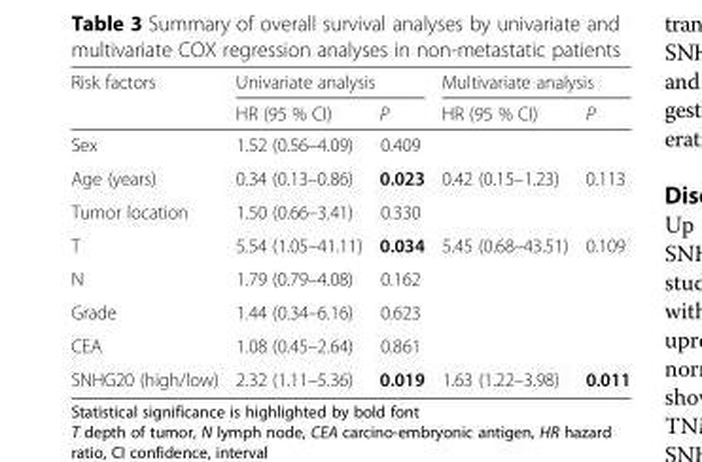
<table><thead><tr><td rowspan="2">Risk factors</td><td colspan="2">Univariate analysis</td><td colspan="2">Multivariate analysis</td></tr><tr><td>HR (95 % CI)</td><td>P</td><td>HR (95 % CI)</td><td>P</td></tr></thead><tbody><tr><td>Sex</td><td>1.52 (0.56–4.09)</td><td>0.409</td><td></td><td></td></tr><tr><td>Age (years)</td><td>0.34 (0.13–0.86)</td><td>0.023</td><td>0.42 (0.15–1.23)</td><td>0.113</td></tr><tr><td>Tumor location</td><td>1.50 (0.66–3.41)</td><td>0.330</td><td></td><td></td></tr><tr><td>T</td><td>5.54 (1.05–41.11)</td><td>0.034</td><td>5.45 (0.68–43.51)</td><td>0.109</td></tr><tr><td>N</td><td>1.79 (0.79–4.08)</td><td>0.162</td><td></td><td></td></tr><tr><td>Grade</td><td>1.44 (0.34–6.16)</td><td>0.623</td><td></td><td></td></tr><tr><td>CEA</td><td>1.08 (0.45–2.64)</td><td>0.861</td><td></td><td></td></tr><tr><td>SNHG20 (high/low)</td><td>2.32 (1.11–5.36)</td><td>0.019</td><td>1.63 (1.22–3.98)</td><td>0.011</td></tr></tbody></table>